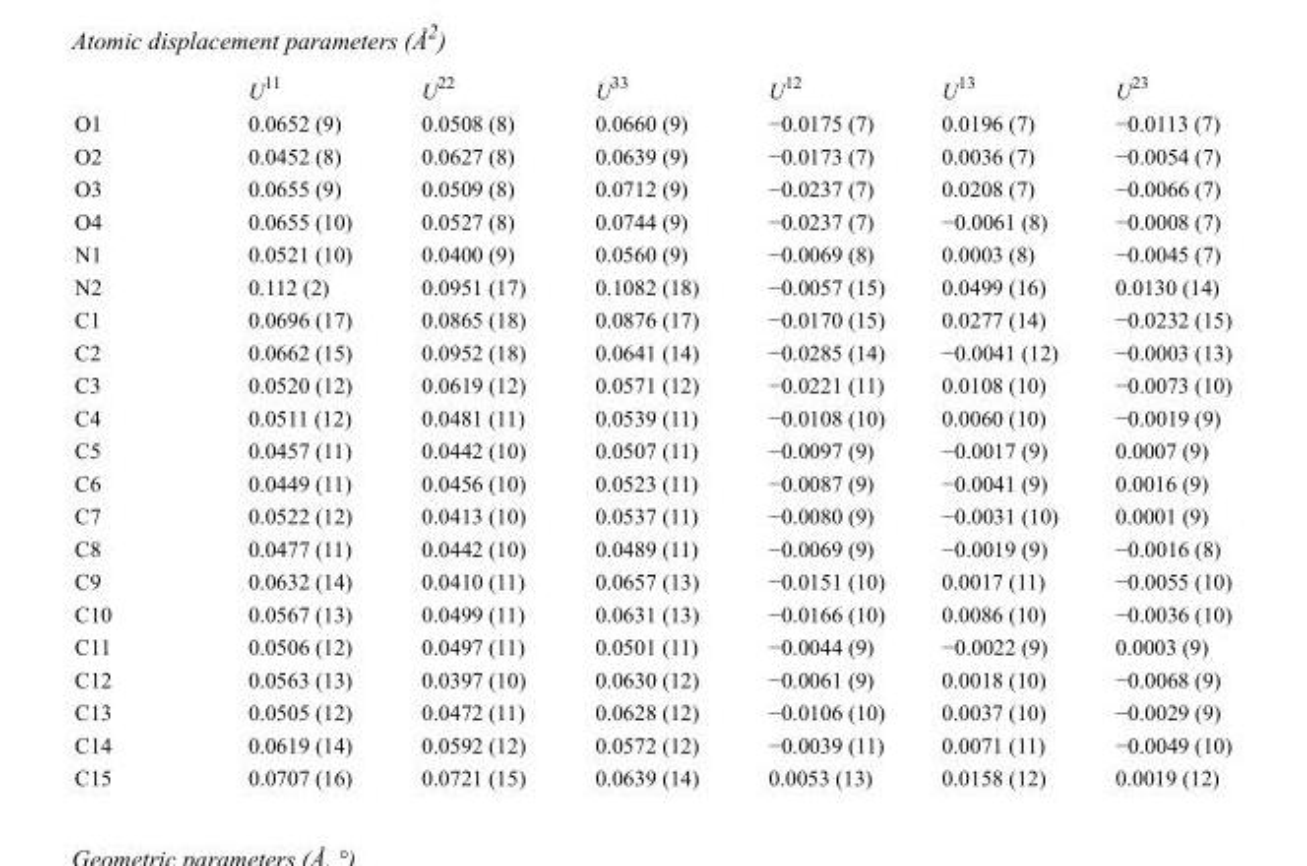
<table><thead><tr><td></td><td>U<sup>11</sup></td><td>U<sup>22</sup></td><td>U<sup>33</sup></td><td>U<sup>12</sup></td><td>U<sup>13</sup></td><td>U<sup>23</sup></td></tr></thead><tbody><tr><td>O1</td><td>0.0652 (9)</td><td>0.0508 (8)</td><td>0.0660 (9)</td><td>−0.0175 (7)</td><td>0.0196 (7)</td><td>−0.0113 (7)</td></tr><tr><td>O2</td><td>0.0452 (8)</td><td>0.0627 (8)</td><td>0.0639 (9)</td><td>−0.0173 (7)</td><td>0.0036 (7)</td><td>−0.0054 (7)</td></tr><tr><td>O3</td><td>0.0655 (9)</td><td>0.0509 (8)</td><td>0.0712 (9)</td><td>−0.0237 (7)</td><td>0.0208 (7)</td><td>−0.0066 (7)</td></tr><tr><td>O4</td><td>0.0655 (10)</td><td>0.0527 (8)</td><td>0.0744 (9)</td><td>−0.0237 (7)</td><td>−0.0061 (8)</td><td>−0.0008 (7)</td></tr><tr><td>N1</td><td>0.0521 (10)</td><td>0.0400 (9)</td><td>0.0560 (9)</td><td>−0.0069 (8)</td><td>0.0003 (8)</td><td>−0.0045 (7)</td></tr><tr><td>N2</td><td>0.112 (2)</td><td>0.0951 (17)</td><td>0.1082 (18)</td><td>−0.0057 (15)</td><td>0.0499 (16)</td><td>0.0130 (14)</td></tr><tr><td>C1</td><td>0.0696 (17)</td><td>0.0865 (18)</td><td>0.0876 (17)</td><td>−0.0170 (15)</td><td>0.0277 (14)</td><td>−0.0232 (15)</td></tr><tr><td>C2</td><td>0.0662 (15)</td><td>0.0952 (18)</td><td>0.0641 (14)</td><td>−0.0285 (14)</td><td>−0.0041 (12)</td><td>−0.0003 (13)</td></tr><tr><td>C3</td><td>0.0520 (12)</td><td>0.0619 (12)</td><td>0.0571 (12)</td><td>−0.0221 (11)</td><td>0.0108 (10)</td><td>−0.0073 (10)</td></tr><tr><td>C4</td><td>0.0511 (12)</td><td>0.0481 (11)</td><td>0.0539 (11)</td><td>−0.0108 (10)</td><td>0.0060 (10)</td><td>−0.0019 (9)</td></tr><tr><td>C5</td><td>0.0457 (11)</td><td>0.0442 (10)</td><td>0.0507 (11)</td><td>−0.0097 (9)</td><td>−0.0017 (9)</td><td>0.0007 (9)</td></tr><tr><td>C6</td><td>0.0449 (11)</td><td>0.0456 (10)</td><td>0.0523 (11)</td><td>−0.0087 (9)</td><td>−0.0041 (9)</td><td>0.0016 (9)</td></tr><tr><td>C7</td><td>0.0522 (12)</td><td>0.0413 (10)</td><td>0.0537 (11)</td><td>−0.0080 (9)</td><td>−0.0031 (10)</td><td>0.0001 (9)</td></tr><tr><td>C8</td><td>0.0477 (11)</td><td>0.0442 (10)</td><td>0.0489 (11)</td><td>−0.0069 (9)</td><td>−0.0019 (9)</td><td>−0.0016 (8)</td></tr><tr><td>C9</td><td>0.0632 (14)</td><td>0.0410 (11)</td><td>0.0657 (13)</td><td>−0.0151 (10)</td><td>0.0017 (11)</td><td>−0.0055 (10)</td></tr><tr><td>C10</td><td>0.0567 (13)</td><td>0.0499 (11)</td><td>0.0631 (13)</td><td>−0.0166 (10)</td><td>0.0086 (10)</td><td>−0.0036 (10)</td></tr><tr><td>C11</td><td>0.0506 (12)</td><td>0.0497 (11)</td><td>0.0501 (11)</td><td>−0.0044 (9)</td><td>−0.0022 (9)</td><td>0.0003 (9)</td></tr><tr><td>C12</td><td>0.0563 (13)</td><td>0.0397 (10)</td><td>0.0630 (12)</td><td>−0.0061 (9)</td><td>0.0018 (10)</td><td>−0.0068 (9)</td></tr><tr><td>C13</td><td>0.0505 (12)</td><td>0.0472 (11)</td><td>0.0628 (12)</td><td>−0.0106 (10)</td><td>0.0037 (10)</td><td>−0.0029 (9)</td></tr><tr><td>C14</td><td>0.0619 (14)</td><td>0.0592 (12)</td><td>0.0572 (12)</td><td>−0.0039 (11)</td><td>0.0071 (11)</td><td>−0.0049 (10)</td></tr><tr><td>C15</td><td>0.0707 (16)</td><td>0.0721 (15)</td><td>0.0639 (14)</td><td>0.0053 (13)</td><td>0.0158 (12)</td><td>0.0019 (12)</td></tr></tbody></table>